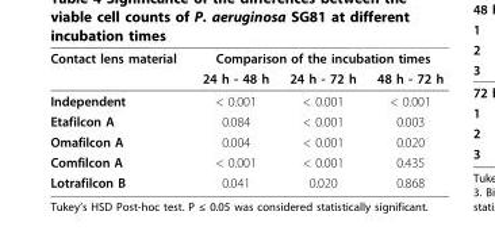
<table><thead><tr><td rowspan="2">Contact lens material</td><td colspan="3">Comparison of the incubation times</td></tr><tr><td>24 h - 48 h</td><td>24 h - 72 h</td><td>48 h - 72 h</td></tr></thead><tbody><tr><td>Independent</td><td>&lt; 0.001</td><td>&lt; 0.001</td><td>&lt; 0.001</td></tr><tr><td>Etafilcon A</td><td>0.084</td><td>&lt; 0.001</td><td>0.003</td></tr><tr><td>Omafilcon A</td><td>0.004</td><td>&lt; 0.001</td><td>0.020</td></tr><tr><td>Comfilcon A</td><td>&lt; 0.001</td><td>&lt; 0.001</td><td>0.435</td></tr><tr><td>Lotrafilcon B</td><td>0.041</td><td>0.020</td><td>0.868</td></tr></tbody></table>